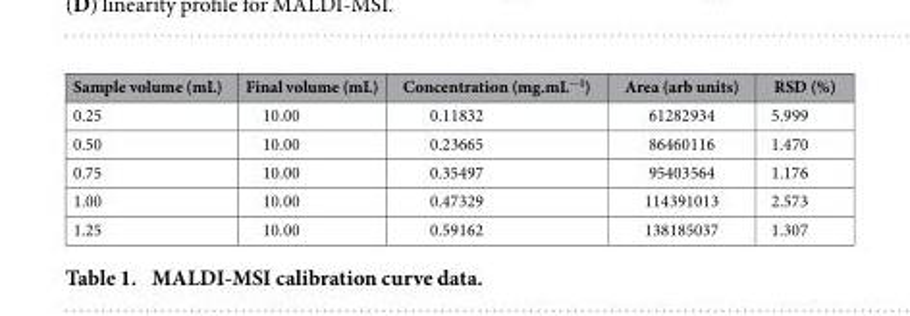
<table><thead><tr><td>Sample volume (mL)</td><td>Final volume (mL)</td><td>Concentration (mg.mL<sup>−1</sup>)</td><td>Area (arb units)</td><td>RSD (%)</td></tr></thead><tbody><tr><td>0.25</td><td>10.00</td><td>0.11832</td><td>61282934</td><td>5.999</td></tr><tr><td>0.50</td><td>10.00</td><td>0.23665</td><td>86460116</td><td>1.470</td></tr><tr><td>0.75</td><td>10.00</td><td>0.35497</td><td>95403564</td><td>1.176</td></tr><tr><td>1.00</td><td>10.00</td><td>0.47329</td><td>114391013</td><td>2.573</td></tr><tr><td>1.25</td><td>10.00</td><td>0.59162</td><td>138185037</td><td>1.307</td></tr></tbody></table>